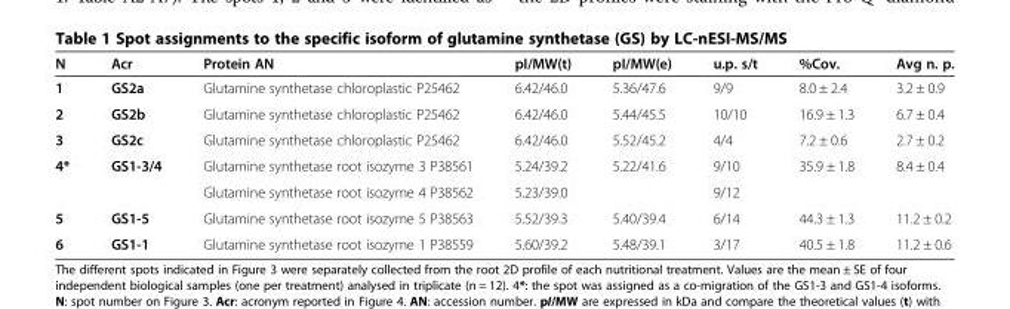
<table><thead><tr><td>N</td><td>Acr</td><td>Protein AN</td><td>pI/MW(t)</td><td>pI/MW(e)</td><td>u.p. s/t</td><td>%Cov.</td><td>Avg n. p.</td></tr></thead><tbody><tr><td>1</td><td>GS2a</td><td>Glutamine synthetase chloroplastic P25462</td><td>6.42/46.0</td><td>5.36/47.6</td><td>9/9</td><td>8.0 ± 2.4</td><td>3.2 ± 0.9</td></tr><tr><td>2</td><td>GS2b</td><td>Glutamine synthetase chloroplastic P25462</td><td>6.42/46.0</td><td>5.44/45.5</td><td>10/10</td><td>16.9 ± 1.3</td><td>6.7 ± 0.4</td></tr><tr><td>3</td><td>GS2c</td><td>Glutamine synthetase chloroplastic P25462</td><td>6.42/46.0</td><td>5.52/45.2</td><td>4/4</td><td>7.2 ± 0.6</td><td>2.7 ± 0.2</td></tr><tr><td rowspan="2">4*</td><td>GS1-3/4</td><td>Glutamine synthetase root isozyme 3 P38561</td><td>5.24/39.2</td><td>5.22/41.6</td><td>9/10</td><td>35.9 ± 1.8</td><td>8.4 ± 0.4</td></tr><tr><td></td><td>Glutamine synthetase root isozyme 4 P38562</td><td>5.23/39.0</td><td></td><td>9/12</td><td></td><td></td></tr><tr><td>5</td><td>GS1-5</td><td>Glutamine synthetase root isozyme 5 P38563</td><td>5.52/39.3</td><td>5.40/39.4</td><td>6/14</td><td>44.3 ± 1.3</td><td>11.2 ± 0.2</td></tr><tr><td>6</td><td>GS1-1</td><td>Glutamine synthetase root isozyme 1 P38559</td><td>5.60/39.2</td><td>5.48/39.1</td><td>3/17</td><td>40.5 ± 1.8</td><td>11.2 ± 0.6</td></tr></tbody></table>